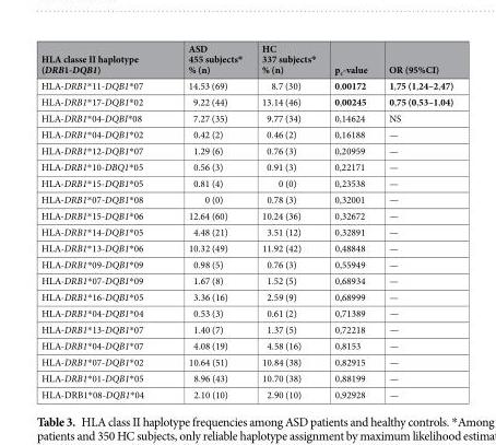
<table><thead><tr><td>HLA classe II haplotype (DRB1-DQB1)</td><td>ASD 455 subjects* % (n)</td><td>HC 337 subjects* % (n)</td><td>p<sub>c</sub>-value</td><td>OR (95%CI)</td></tr></thead><tbody><tr><td>HLA-DRB1*11-DQB1*07</td><td>14.53 (69)</td><td>8.7 (30)</td><td>0,00172</td><td>1,75 (1,24–2,47)</td></tr><tr><td>HLA-DRB1*17-DQB1*02</td><td>9.22 (44)</td><td>13.14 (46)</td><td>0,00245</td><td>0,75 (0,53–1,04)</td></tr><tr><td>HLA-DRB1*04-DQBI*08</td><td>7.27 (35)</td><td>9.77 (34)</td><td>0,14624</td><td>NS</td></tr><tr><td>HLA-DRB1*04-DQB1*02</td><td>0.42 (2)</td><td>0.46 (2)</td><td>0,16188</td><td>—</td></tr><tr><td>HLA-DRB1*12-DQB1*07</td><td>1.29 (6)</td><td>0.76 (3)</td><td>0,20959</td><td>—</td></tr><tr><td>HLA-DRB1*10-DBQ1*05</td><td>0.56 (3)</td><td>0.91 (3)</td><td>0,22171</td><td>—</td></tr><tr><td>HLA-DRB1*15-DQB1*05</td><td>0.81 (4)</td><td>0 (0)</td><td>0,23538</td><td>—</td></tr><tr><td>HLA-DRB1*07-DQB1*08</td><td>0 (0)</td><td>0.78 (3)</td><td>0,32001</td><td>—</td></tr><tr><td>HLA-DRB1*15-DQB1*06</td><td>12.64 (60)</td><td>10.24 (36)</td><td>0,32672</td><td>—</td></tr><tr><td>HLA-DRB1*14-DQB1*05</td><td>4.48 (21)</td><td>3.51 (12)</td><td>0,32891</td><td>—</td></tr><tr><td>HLA-DRB1*13-DQB1*06</td><td>10.32 (49)</td><td>11.92 (42)</td><td>0,48848</td><td>—</td></tr><tr><td>HLA-DRB1*09-DQB1*09</td><td>0.98 (5)</td><td>0.76 (3)</td><td>0,55949</td><td>—</td></tr><tr><td>HLA-DRB1*07-DQB1*09</td><td>1.67 (8)</td><td>1.52 (5)</td><td>0,68934</td><td>—</td></tr><tr><td>HLA-DRB1*16-DQB1*05</td><td>3.36 (16)</td><td>2.59 (9)</td><td>0,68999</td><td>—</td></tr><tr><td>HLA-DRB1*04-DQB1*04</td><td>0.53 (3)</td><td>0.61 (2)</td><td>0,71389</td><td>—</td></tr><tr><td>HLA-DRB1*13-DQB1*07</td><td>1.40 (7)</td><td>1.37 (5)</td><td>0,72218</td><td>—</td></tr><tr><td>HLA-DRB1*04-DQB1*07</td><td>4.08 (19)</td><td>4.58 (16)</td><td>0,8153</td><td>—</td></tr><tr><td>HLA-DRB1*07-DQB1*02</td><td>10.64 (51)</td><td>10.84 (38)</td><td>0,82915</td><td>—</td></tr><tr><td>HLA-DRB1*01-DQB1*05</td><td>8.96 (43)</td><td>10.70 (38)</td><td>0,88199</td><td>—</td></tr><tr><td>HLA-DRB1*08-DQB1*04</td><td>2.10 (10)</td><td>2.90 (10)</td><td>0,92928</td><td>—</td></tr></tbody></table>